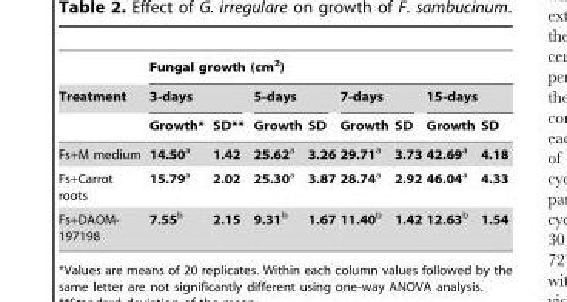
<table><thead><tr><td rowspan="3">Treatment</td><td colspan="8">Fungal growth (cm<sup>2</sup>)</td></tr><tr><td colspan="2">3-days</td><td colspan="2">5-days</td><td colspan="2">7-days</td><td colspan="2">15-days</td></tr><tr><td>Growth*</td><td>SD**</td><td>Growth</td><td>SD</td><td>Growth</td><td>SD</td><td>Growth</td><td>SD</td></tr></thead><tbody><tr><td>Fs+M medium</td><td>14.50<sup>a</sup></td><td>1.42</td><td>25.62<sup>a</sup></td><td>3.26</td><td>29.71<sup>a</sup></td><td>3.73</td><td>42.69<sup>a</sup></td><td>4.18</td></tr><tr><td>Fs+Carrot roots</td><td>15.79<sup>a</sup></td><td>2.02</td><td>25.30<sup>a</sup></td><td>3.87</td><td>28.74<sup>a</sup></td><td>2.92</td><td>46.04<sup>a</sup></td><td>4.33</td></tr><tr><td>Fs+DAOM- 197198</td><td>7.55<sup>b</sup></td><td>2.15</td><td>9.31<sup>b</sup></td><td>1.67</td><td>11.40<sup>b</sup></td><td>1.42</td><td>12.63<sup>b</sup></td><td>1.54</td></tr></tbody></table>